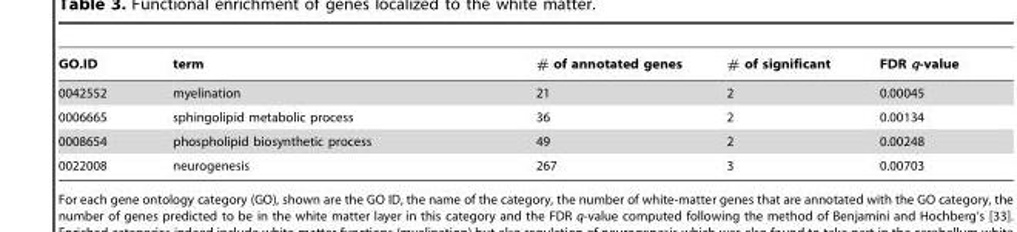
<table><thead><tr><td>GO.ID</td><td>term</td><td># of annotated genes</td><td># of significant</td><td>FDR q-value</td></tr></thead><tbody><tr><td>0042552</td><td>myelination</td><td>21</td><td>2</td><td>0.00045</td></tr><tr><td>0006665</td><td>sphingolipid metabolic process</td><td>36</td><td>2</td><td>0.00134</td></tr><tr><td>0008654</td><td>phospholipid biosynthetic process</td><td>49</td><td>2</td><td>0.00248</td></tr><tr><td>0022008</td><td>neurogenesis</td><td>267</td><td>3</td><td>0.00703</td></tr></tbody></table>